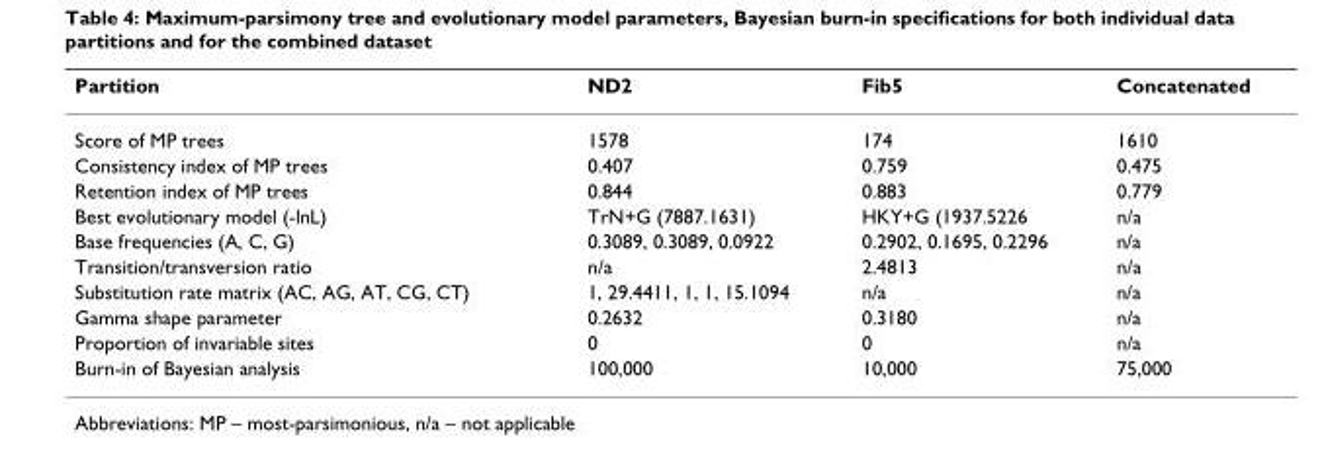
<table><thead><tr><td>Partition</td><td>ND2</td><td>Fib5</td><td>Concatenated</td></tr></thead><tbody><tr><td>Score of MP trees</td><td>1578</td><td>174</td><td>1610</td></tr><tr><td>Consistency index of MP trees</td><td>0.407</td><td>0.759</td><td>0.475</td></tr><tr><td>Retention index of MP trees</td><td>0.844</td><td>0.883</td><td>0.779</td></tr><tr><td>Best evolutionary model (-lnL)</td><td>TrN+G (7887.1631)</td><td>HKY+G (1937.5226</td><td>n/a</td></tr><tr><td>Base frequencies (A, C, G)</td><td>0.3089, 0.3089, 0.0922</td><td>0.2902, 0.1695, 0.2296</td><td>n/a</td></tr><tr><td>Transition/transversion ratio</td><td>n/a</td><td>2.4813</td><td>n/a</td></tr><tr><td>Substitution rate matrix (AC, AG, AT, CG, CT)</td><td>1, 29.4411, 1, 1, 15.1094</td><td>n/a</td><td>n/a</td></tr><tr><td>Gamma shape parameter</td><td>0.2632</td><td>0.3180</td><td>n/a</td></tr><tr><td>Proportion of invariable sites</td><td>0</td><td>0</td><td>n/a</td></tr><tr><td>Burn-in of Bayesian analysis</td><td>100,000</td><td>10,000</td><td>75,000</td></tr></tbody></table>